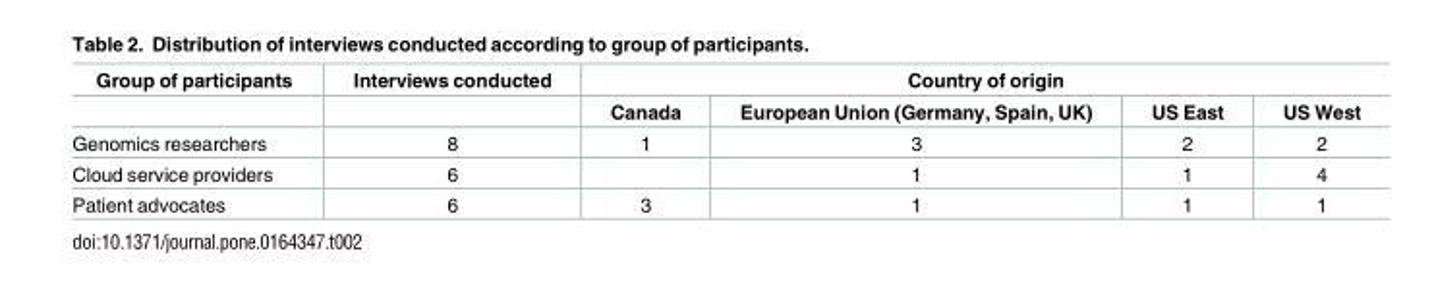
<table><thead><tr><td rowspan="2">Group of participants</td><td rowspan="2">Interviews conducted</td><td colspan="4">Country of origin</td></tr><tr><td>Canada</td><td>European Union (Germany, Spain, UK)</td><td>US East</td><td>US West</td></tr></thead><tbody><tr><td>Genomics researchers</td><td>8</td><td>1</td><td>3</td><td>2</td><td>2</td></tr><tr><td>Cloud service providers</td><td>6</td><td></td><td>1</td><td>1</td><td>4</td></tr><tr><td>Patient advocates</td><td>6</td><td>3</td><td>1</td><td>1</td><td>1</td></tr></tbody></table>